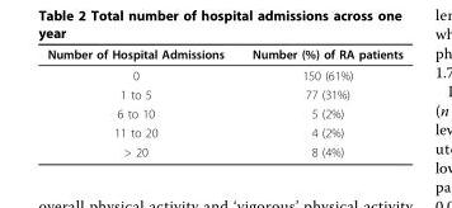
<table><thead><tr><td>Number of Hospital Admissions</td><td>Number (%) of RA patients</td></tr></thead><tbody><tr><td>0</td><td>150 (61%)</td></tr><tr><td>1 to 5</td><td>77 (31%)</td></tr><tr><td>6 to 10</td><td>5 (2%)</td></tr><tr><td>11 to 20</td><td>4 (2%)</td></tr><tr><td>&gt; 20</td><td>8 (4%)</td></tr></tbody></table>